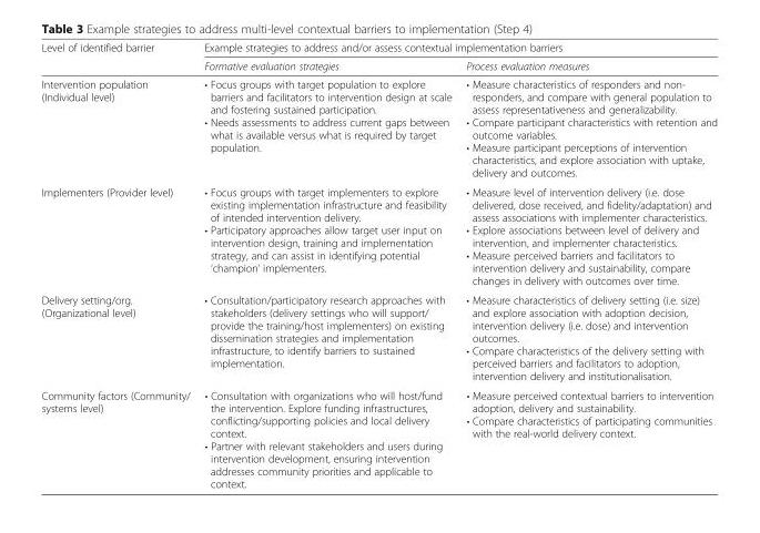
<table><thead><tr><td rowspan="2">Level of identified barrier</td><td colspan="2">Example strategies to address and/or assess contextual implementation barriers</td></tr><tr><td>Formative evaluation strategies</td><td>Process evaluation measures</td></tr></thead><tbody><tr><td>Intervention population (Individual level)</td><td>• Focus groups with target population to explore barriers and facilitators to intervention design at scale and fostering sustained participation. • Needs assessments to address current gaps between what is available versus what is required by target population.</td><td>• Measure characteristics of responders and non- responders, and compare with general population to assess representativeness and generalizability. • Compare participant characteristics with retention and outcome variables. • Measure participant perceptions of intervention characteristics, and explore association with uptake, delivery and outcomes.</td></tr><tr><td>Implementers (Provider level)</td><td>• Focus groups with target implementers to explore existing implementation infrastructure and feasibility of intended intervention delivery. • Participatory approaches allow target user input on intervention design, training and implementation strategy, and can assist in identifying potential ‘champion’ implementers.</td><td>• Measure level of intervention delivery (i.e. dose delivered, dose received, and fidelity/adaptation) and assess associations with implementer characteristics. • Explore associations between level of delivery and intervention, and implementer characteristics. • Measure perceived barriers and facilitators to intervention delivery and sustainability, compare changes in delivery with outcomes over time.</td></tr><tr><td>Delivery setting/org. (Organizational level)</td><td>• Consultation/participatory research approaches with stakeholders (delivery settings who will support/ provide the training/host implementers) on existing dissemination strategies and implementation infrastructure, to identify barriers to sustained implementation.</td><td>• Measure characteristics of delivery setting (i.e. size) and explore association with adoption decision, intervention delivery (i.e. dose) and intervention outcomes. • Compare characteristics of the delivery setting with perceived barriers and facilitators to adoption, intervention delivery and institutionalisation.</td></tr><tr><td>Community factors (Community/ systems level)</td><td>• Consultation with organizations who will host/fund the intervention. Explore funding infrastructures, conflicting/supporting policies and local delivery context. • Partner with relevant stakeholders and users during intervention development, ensuring intervention addresses community priorities and applicable to context.</td><td>• Measure perceived contextual barriers to intervention adoption, delivery and sustainability. • Compare characteristics of participating communities with the real-world delivery context.</td></tr></tbody></table>